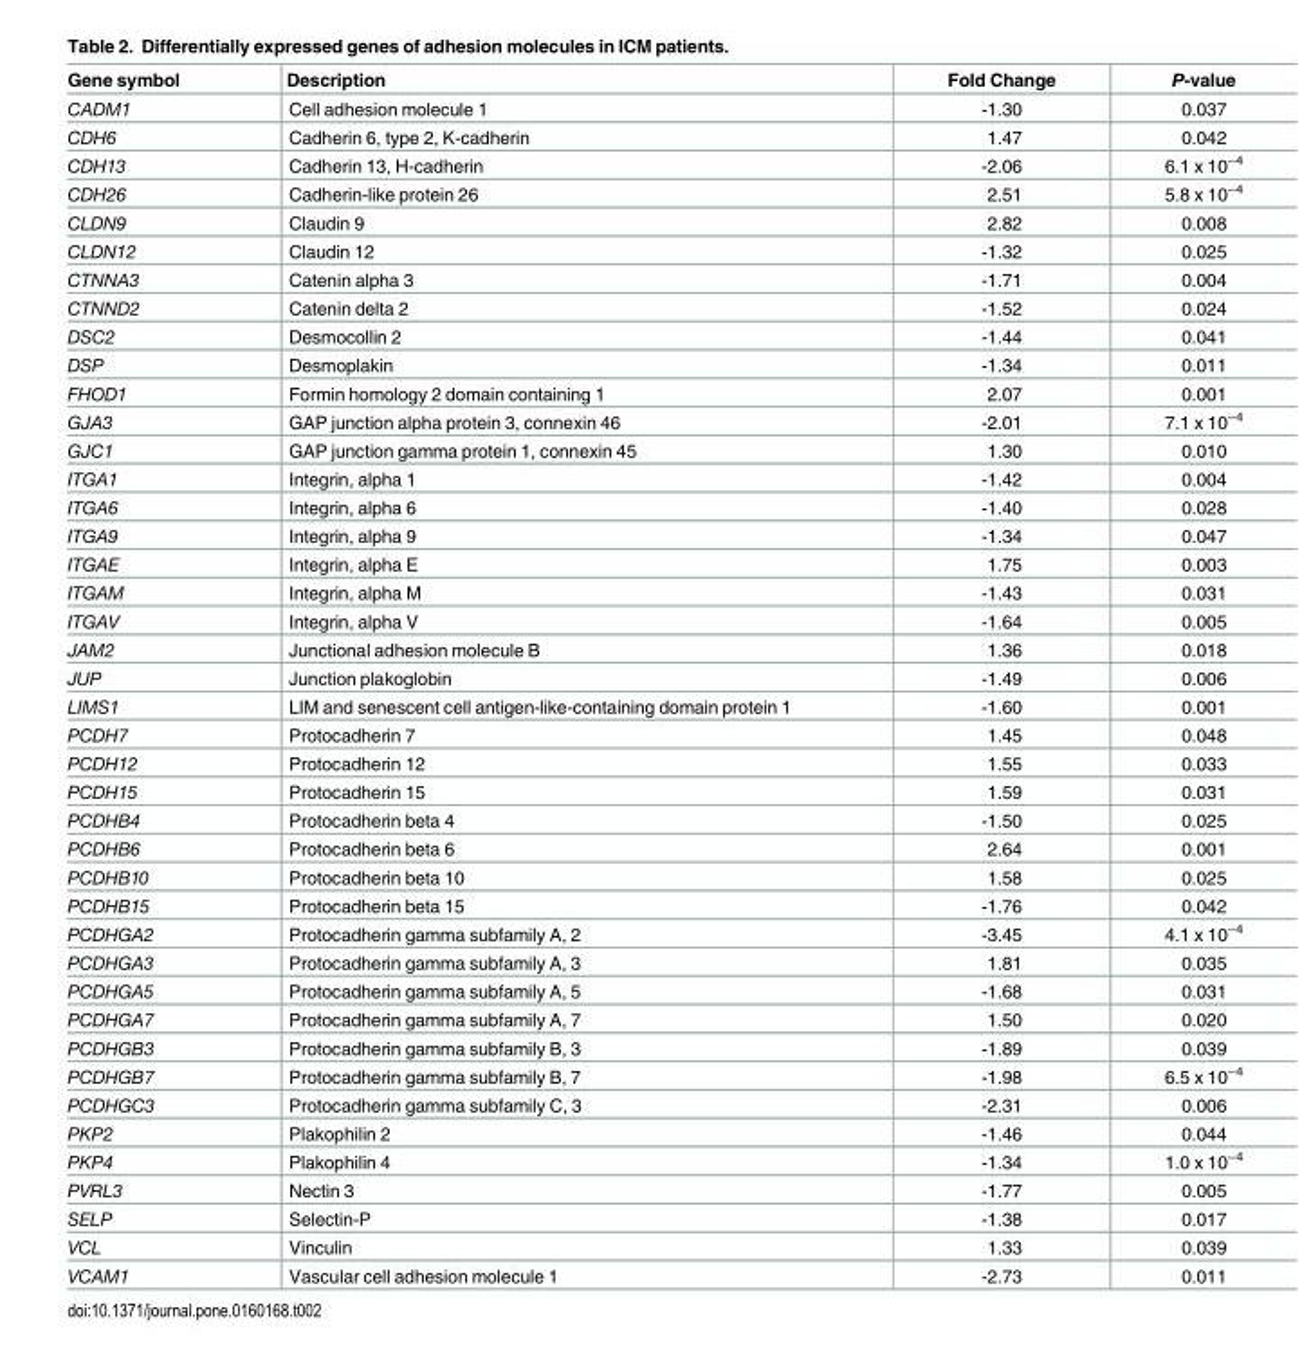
<table><thead><tr><td>Gene symbol</td><td>Description</td><td>Fold Change</td><td>P-value</td></tr></thead><tbody><tr><td>CADM1</td><td>Cell adhesion molecule 1</td><td>-1.30</td><td>0.037</td></tr><tr><td>CDH6</td><td>Cadherin 6, type 2, K-cadherin</td><td>1.47</td><td>0.042</td></tr><tr><td>CDH13</td><td>Cadherin 13, H-cadherin</td><td>-2.06</td><td>6.1 x 10<sup>−4</sup></td></tr><tr><td>CDH26</td><td>Cadherin-like protein 26</td><td>2.51</td><td>5.8 x 10<sup>−4</sup></td></tr><tr><td>CLDN9</td><td>Claudin 9</td><td>2.82</td><td>0.008</td></tr><tr><td>CLDN12</td><td>Claudin 12</td><td>-1.32</td><td>0.025</td></tr><tr><td>CTNNA3</td><td>Catenin alpha 3</td><td>-1.71</td><td>0.004</td></tr><tr><td>CTNND2</td><td>Catenin delta 2</td><td>-1.52</td><td>0.024</td></tr><tr><td>DSC2</td><td>Desmocollin 2</td><td>-1.44</td><td>0.041</td></tr><tr><td>DSP</td><td>Desmoplakin</td><td>-1.34</td><td>0.011</td></tr><tr><td>FHOD1</td><td>Formin homology 2 domain containing 1</td><td>2.07</td><td>0.001</td></tr><tr><td>GJA3</td><td>GAP junction alpha protein 3, connexin 46</td><td>-2.01</td><td>7.1 x 10<sup>−4</sup></td></tr><tr><td>GJC1</td><td>GAP junction gamma protein 1, connexin 45</td><td>1.30</td><td>0.010</td></tr><tr><td>ITGA1</td><td>Integrin, alpha 1</td><td>-1.42</td><td>0.004</td></tr><tr><td>ITGA6</td><td>Integrin, alpha 6</td><td>-1.40</td><td>0.028</td></tr><tr><td>ITGA9</td><td>Integrin, alpha 9</td><td>-1.34</td><td>0.047</td></tr><tr><td>ITGAE</td><td>Integrin, alpha E</td><td>1.75</td><td>0.003</td></tr><tr><td>ITGAM</td><td>Integrin, alpha M</td><td>-1.43</td><td>0.031</td></tr><tr><td>ITGAV</td><td>Integrin, alpha V</td><td>-1.64</td><td>0.005</td></tr><tr><td>JAM2</td><td>Junctional adhesion molecule B</td><td>1.36</td><td>0.018</td></tr><tr><td>JUP</td><td>Junction plakoglobin</td><td>-1.49</td><td>0.006</td></tr><tr><td>LIMS1</td><td>LIM and senescent cell antigen-like-containing domain protein 1</td><td>-1.60</td><td>0.001</td></tr><tr><td>PCDH7</td><td>Protocadherin 7</td><td>1.45</td><td>0.048</td></tr><tr><td>PCDH12</td><td>Protocadherin 12</td><td>1.55</td><td>0.033</td></tr><tr><td>PCDH15</td><td>Protocadherin 15</td><td>1.59</td><td>0.031</td></tr><tr><td>PCDHB4</td><td>Protocadherin beta 4</td><td>-1.50</td><td>0.025</td></tr><tr><td>PCDHB6</td><td>Protocadherin beta 6</td><td>2.64</td><td>0.001</td></tr><tr><td>PCDHB10</td><td>Protocadherin beta 10</td><td>1.58</td><td>0.025</td></tr><tr><td>PCDHB15</td><td>Protocadherin beta 15</td><td>-1.76</td><td>0.042</td></tr><tr><td>PCDHGA2</td><td>Protocadherin gamma subfamily A, 2</td><td>-3.45</td><td>4.1 x 10<sup>−4</sup></td></tr><tr><td>PCDHGA3</td><td>Protocadherin gamma subfamily A, 3</td><td>1.81</td><td>0.035</td></tr><tr><td>PCDHGA5</td><td>Protocadherin gamma subfamily A, 5</td><td>-1.68</td><td>0.031</td></tr><tr><td>PCDHGA7</td><td>Protocadherin gamma subfamily A, 7</td><td>1.50</td><td>0.020</td></tr><tr><td>PCDHGB3</td><td>Protocadherin gamma subfamily B, 3</td><td>-1.89</td><td>0.039</td></tr><tr><td>PCDHGB7</td><td>Protocadherin gamma subfamily B, 7</td><td>-1.98</td><td>6.5 x 10<sup>−4</sup></td></tr><tr><td>PCDHGC3</td><td>Protocadherin gamma subfamily C, 3</td><td>-2.31</td><td>0.006</td></tr><tr><td>PKP2</td><td>Plakophilin 2</td><td>-1.46</td><td>0.044</td></tr><tr><td>PKP4</td><td>Plakophilin 4</td><td>-1.34</td><td>1.0 x 10<sup>−4</sup></td></tr><tr><td>PVRL3</td><td>Nectin 3</td><td>-1.77</td><td>0.005</td></tr><tr><td>SELP</td><td>Selectin-P</td><td>-1.38</td><td>0.017</td></tr><tr><td>VCL</td><td>Vinculin</td><td>1.33</td><td>0.039</td></tr><tr><td>VCAM1</td><td>Vascular cell adhesion molecule 1</td><td>-2.73</td><td>0.011</td></tr></tbody></table>